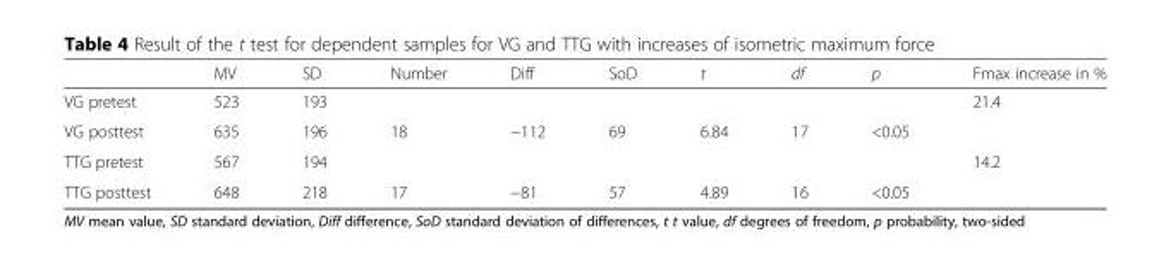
<table><thead><tr><td></td><td>MV</td><td>SD</td><td>Number</td><td>Diff</td><td>SoD</td><td>t</td><td>df</td><td>p</td><td>Fmax increase in %</td></tr></thead><tbody><tr><td>VG pretest</td><td>523</td><td>193</td><td colspan="6"></td><td rowspan="2">21.4</td></tr><tr><td>VG posttest</td><td>635</td><td>196</td><td>18</td><td>−112</td><td>69</td><td>6.84</td><td>17</td><td>&lt;0.05</td></tr><tr><td>TTG pretest</td><td>567</td><td>194</td><td colspan="6"></td><td rowspan="2">14.2</td></tr><tr><td>TTG posttest</td><td>648</td><td>218</td><td>17</td><td>−81</td><td>57</td><td>4.89</td><td>16</td><td>&lt;0.05</td></tr></tbody></table>